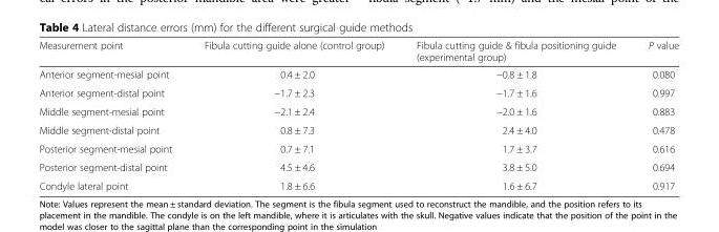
<table><thead><tr><td>Measurement point</td><td>Fibula cutting guide alone (control group)</td><td>Fibula cutting guide &amp; fibula positioning guide (experimental group)</td><td>P value</td></tr></thead><tbody><tr><td>Anterior segment-mesial point</td><td>0.4 ± 2.0</td><td>−0.8 ± 1.8</td><td>0.080</td></tr><tr><td>Anterior segment-distal point</td><td>−1.7 ± 2.3</td><td>−1.7 ± 1.6</td><td>0.997</td></tr><tr><td>Middle segment-mesial point</td><td>−2.1 ± 2.4</td><td>−2.0 ± 1.6</td><td>0.883</td></tr><tr><td>Middle segment-distal point</td><td>0.8 ± 7.3</td><td>2.4 ± 4.0</td><td>0.478</td></tr><tr><td>Posterior segment-mesial point</td><td>0.7 ± 7.1</td><td>1.7 ± 3.7</td><td>0.616</td></tr><tr><td>Posterior segment-distal point</td><td>4.5 ± 4.6</td><td>3.8 ± 5.0</td><td>0.694</td></tr><tr><td>Condyle lateral point</td><td>1.8 ± 6.6</td><td>1.6 ± 6.7</td><td>0.917</td></tr></tbody></table>